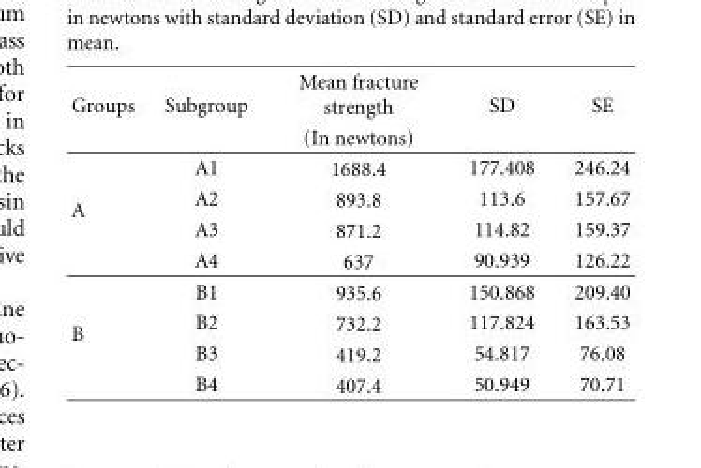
<table><thead><tr><td rowspan="2">Groups</td><td rowspan="2">Subgroup</td><td rowspan="2">Mean fracture strength (In newtons)</td><td rowspan="2">SD</td><td rowspan="2">SE</td></tr><tr></tr></thead><tbody><tr><td rowspan="4">A</td><td>A1</td><td>1688.4</td><td>177.408</td><td>246.24</td></tr><tr><td>A2</td><td>893.8</td><td>113.6</td><td>157.67</td></tr><tr><td>A3</td><td>871.2</td><td>114.82</td><td>159.37</td></tr><tr><td>A4</td><td>637</td><td>90.939</td><td>126.22</td></tr><tr><td rowspan="4">B</td><td>B1</td><td>935.6</td><td>150.868</td><td>209.40</td></tr><tr><td>B2</td><td>732.2</td><td>117.824</td><td>163.53</td></tr><tr><td>B3</td><td>419.2</td><td>54.817</td><td>76.08</td></tr><tr><td>B4</td><td>407.4</td><td>50.949</td><td>70.71</td></tr></tbody></table>